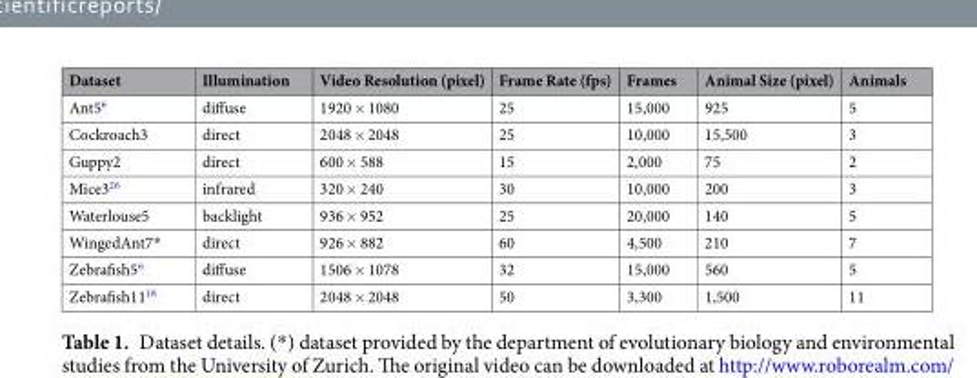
<table><thead><tr><td>Dataset</td><td>Illumination</td><td>Video Resolution (pixel)</td><td>Frame Rate (fps)</td><td>Frames</td><td>Animal Size (pixel)</td><td>Animals</td></tr></thead><tbody><tr><td>Ant5<sup>6</sup></td><td>diffuse</td><td>1920 × 1080</td><td>25</td><td>15,000</td><td>925</td><td>5</td></tr><tr><td>Cockroach3</td><td>direct</td><td>2048 × 2048</td><td>25</td><td>10,000</td><td>15,500</td><td>3</td></tr><tr><td>Guppy2</td><td>direct</td><td>600 × 588</td><td>15</td><td>2,000</td><td>75</td><td>2</td></tr><tr><td>Mice3<sup>26</sup></td><td>infrared</td><td>320 × 240</td><td>30</td><td>10,000</td><td>200</td><td>3</td></tr><tr><td>Waterlouse5</td><td>backlight</td><td>936 × 952</td><td>25</td><td>20,000</td><td>140</td><td>5</td></tr><tr><td>WingedAnt7*</td><td>direct</td><td>926 × 882</td><td>60</td><td>4,500</td><td>210</td><td>7</td></tr><tr><td>Zebrafish5<sup>6</sup></td><td>diffuse</td><td>1506 × 1078</td><td>32</td><td>15,000</td><td>560</td><td>5</td></tr><tr><td>Zebrafish11<sup>18</sup></td><td>direct</td><td>2048 × 2048</td><td>50</td><td>3,300</td><td>1,500</td><td>11</td></tr></tbody></table>